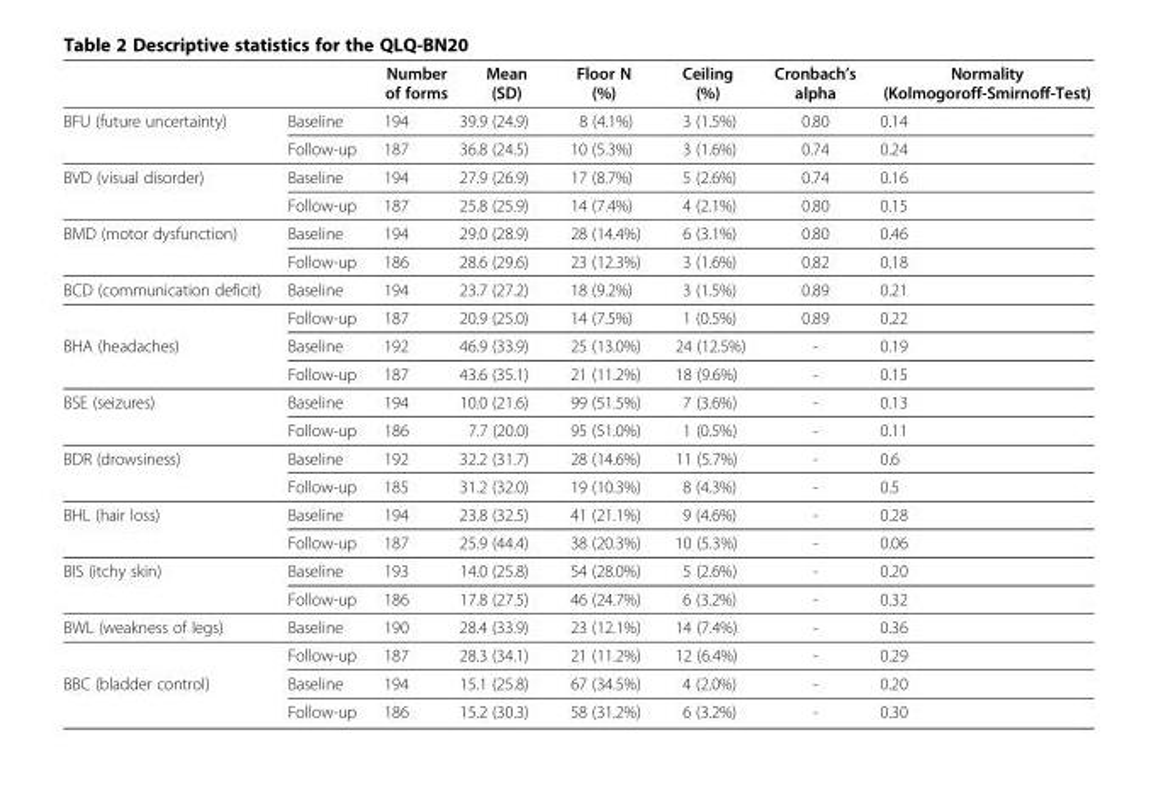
<table><thead><tr><td></td><td></td><td>Number of forms</td><td>Mean (SD)</td><td>Floor N (%)</td><td>Ceiling (%)</td><td>Cronbach’s alpha</td><td>Normality (Kolmogoroff-Smirnoff-Test)</td></tr></thead><tbody><tr><td rowspan="2">BFU (future uncertainty)</td><td>Baseline</td><td>194</td><td>39.9 (24.9)</td><td>8 (4.1%)</td><td>3 (1.5%)</td><td>0.80</td><td>0.14</td></tr><tr><td>Follow-up</td><td>187</td><td>36.8 (24.5)</td><td>10 (5.3%)</td><td>3 (1.6%)</td><td>0.74</td><td>0.24</td></tr><tr><td rowspan="2">BVD (visual disorder)</td><td>Baseline</td><td>194</td><td>27.9 (26.9)</td><td>17 (8.7%)</td><td>5 (2.6%)</td><td>0.74</td><td>0.16</td></tr><tr><td>Follow-up</td><td>187</td><td>25.8 (25.9)</td><td>14 (7.4%)</td><td>4 (2.1%)</td><td>0.80</td><td>0.15</td></tr><tr><td rowspan="2">BMD (motor dysfunction)</td><td>Baseline</td><td>194</td><td>29.0 (28.9)</td><td>28 (14.4%)</td><td>6 (3.1%)</td><td>0.80</td><td>0.46</td></tr><tr><td>Follow-up</td><td>186</td><td>28.6 (29.6)</td><td>23 (12.3%)</td><td>3 (1.6%)</td><td>0.82</td><td>0.18</td></tr><tr><td>BCD (communication deficit)</td><td>Baseline</td><td>194</td><td>23.7 (27.2)</td><td>18 (9.2%)</td><td>3 (1.5%)</td><td>0.89</td><td>0.21</td></tr><tr><td rowspan="3">BHA (headaches)</td><td>Follow-up</td><td>187</td><td>20.9 (25.0)</td><td>14 (7.5%)</td><td>1 (0.5%)</td><td>0.89</td><td>0.22</td></tr><tr><td>Baseline</td><td>192</td><td>46.9 (33.9)</td><td>25 (13.0%)</td><td>24 (12.5%)</td><td>-</td><td>0.19</td></tr><tr><td>Follow-up</td><td>187</td><td>43.6 (35.1)</td><td>21 (11.2%)</td><td>18 (9.6%)</td><td>-</td><td>0.15</td></tr><tr><td rowspan="2">BSE (seizures)</td><td>Baseline</td><td>194</td><td>10.0 (21.6)</td><td>99 (51.5%)</td><td>7 (3.6%)</td><td>-</td><td>0.13</td></tr><tr><td>Follow-up</td><td>186</td><td>7.7 (20.0)</td><td>95 (51.0%)</td><td>1 (0.5%)</td><td>-</td><td>0.11</td></tr><tr><td rowspan="2">BDR (drowsiness)</td><td>Baseline</td><td>192</td><td>32.2 (31.7)</td><td>28 (14.6%)</td><td>11 (5.7%)</td><td>-</td><td>0.6</td></tr><tr><td>Follow-up</td><td>185</td><td>31.2 (32.0)</td><td>19 (10.3%)</td><td>8 (4.3%)</td><td>-</td><td>0.5</td></tr><tr><td rowspan="2">BHL (hair loss)</td><td>Baseline</td><td>194</td><td>23.8 (32.5)</td><td>41 (21.1%)</td><td>9 (4.6%)</td><td>-</td><td>0.28</td></tr><tr><td>Follow-up</td><td>187</td><td>25.9 (44.4)</td><td>38 (20.3%)</td><td>10 (5.3%)</td><td>-</td><td>0.06</td></tr><tr><td rowspan="2">BIS (itchy skin)</td><td>Baseline</td><td>193</td><td>14.0 (25.8)</td><td>54 (28.0%)</td><td>5 (2.6%)</td><td>-</td><td>0.20</td></tr><tr><td>Follow-up</td><td>186</td><td>17.8 (27.5)</td><td>46 (24.7%)</td><td>6 (3.2%)</td><td>-</td><td>0.32</td></tr><tr><td>BWL (weakness of legs)</td><td>Baseline</td><td>190</td><td>28.4 (33.9)</td><td>23 (12.1%)</td><td>14 (7.4%)</td><td>-</td><td>0.36</td></tr><tr><td rowspan="3">BBC (bladder control)</td><td>Follow-up</td><td>187</td><td>28.3 (34.1)</td><td>21 (11.2%)</td><td>12 (6.4%)</td><td>-</td><td>0.29</td></tr><tr><td>Baseline</td><td>194</td><td>15.1 (25.8)</td><td>67 (34.5%)</td><td>4 (2.0%)</td><td>-</td><td>0.20</td></tr><tr><td>Follow-up</td><td>186</td><td>15.2 (30.3)</td><td>58 (31.2%)</td><td>6 (3.2%)</td><td>-</td><td>0.30</td></tr></tbody></table>